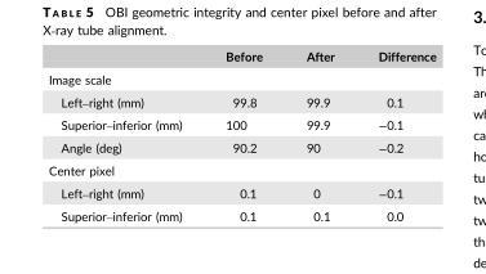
<table><thead><tr><td></td><td>Before</td><td>After</td><td>Difference</td></tr></thead><tbody><tr><td colspan="4">Image scale</td></tr><tr><td>Left–right (mm)</td><td>99.8</td><td>99.9</td><td>0.1</td></tr><tr><td>Superior–inferior (mm)</td><td>100</td><td>99.9</td><td>−0.1</td></tr><tr><td>Angle (deg)</td><td>90.2</td><td>90</td><td>−0.2</td></tr><tr><td colspan="4">Center pixel</td></tr><tr><td>Left–right (mm)</td><td>0.1</td><td>0</td><td>−0.1</td></tr><tr><td>Superior–inferior (mm)</td><td>0.1</td><td>0.1</td><td>0.0</td></tr></tbody></table>